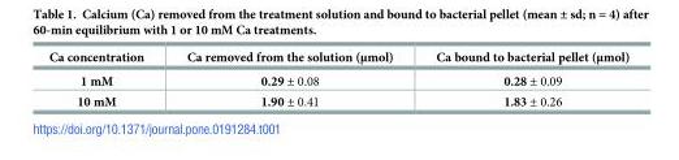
<table><thead><tr><td>Ca concentration</td><td>Ca removed from the solution (μmol)</td><td>Ca bound to bacterial pellet (μmol)</td></tr></thead><tbody><tr><td>1 mM</td><td>0.29 ± 0.08</td><td>0.28 ± 0.09</td></tr><tr><td>10 mM</td><td>1.90 ± 0.41</td><td>1.83 ± 0.26</td></tr></tbody></table>